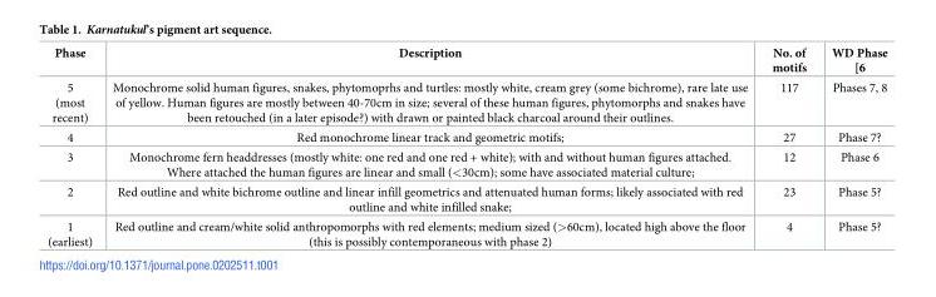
<table><thead><tr><td>Phase</td><td>Description</td><td>No. of motifs</td><td>WD Phase [6</td></tr></thead><tbody><tr><td>5 (most recent)</td><td>Monochrome solid human figures, snakes, phytomoprhs and turtles: mostly white, cream grey (some bichrome), rare late use of yellow. Human figures are mostly between 40-70cm in size; several of these human figures, phytomorphs and snakes have been retouched (in a later episode?) with drawn or painted black charcoal around their outlines.</td><td>117</td><td>Phases 7, 8</td></tr><tr><td>4</td><td>Red monochrome linear track and geometric motifs;</td><td>27</td><td>Phase 7?</td></tr><tr><td>3</td><td>Monochrome fern headdresses (mostly white: one red and one red + white); with and without human figures attached. Where attached the human figures are linear and small (&lt;30cm); some have associated material culture;</td><td>12</td><td>Phase 6</td></tr><tr><td>2</td><td>Red outline and white bichrome outline and linear infill geometrics and attenuated human forms; likely associated with red outline and white infilled snake;</td><td>23</td><td>Phase 5?</td></tr><tr><td>1 (earliest)</td><td>Red outline and cream/white solid anthropomorphs with red elements; medium sized (&gt;60cm), located high above the floor (this is possibly contemporaneous with phase 2)</td><td>4</td><td>Phase 5?</td></tr></tbody></table>